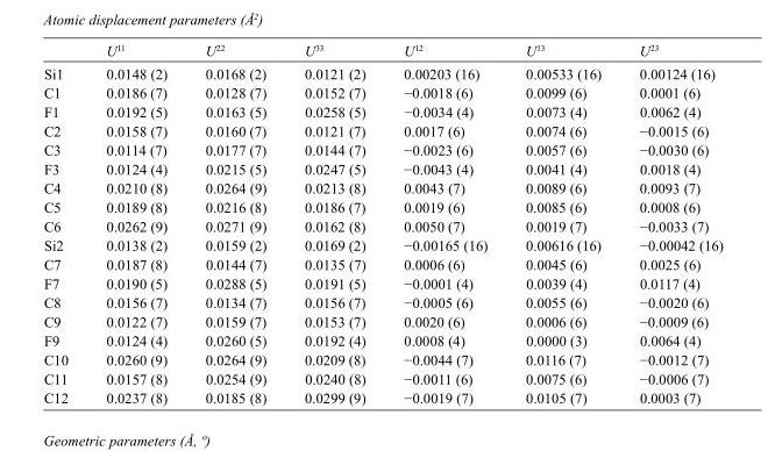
<table><thead><tr><td></td><td>U<sup>11</sup></td><td>U<sup>22</sup></td><td>U<sup>33</sup></td><td>U<sup>12</sup></td><td>U<sup>13</sup></td><td>U<sup>23</sup></td></tr></thead><tbody><tr><td>Si1</td><td>0.0148 (2)</td><td>0.0168 (2)</td><td>0.0121 (2)</td><td>0.00203 (16)</td><td>0.00533 (16)</td><td>0.00124 (16)</td></tr><tr><td>C1</td><td>0.0186 (7)</td><td>0.0128 (7)</td><td>0.0152 (7)</td><td>−0.0018 (6)</td><td>0.0099 (6)</td><td>0.0001 (6)</td></tr><tr><td>F1</td><td>0.0192 (5)</td><td>0.0163 (5)</td><td>0.0258 (5)</td><td>−0.0034 (4)</td><td>0.0073 (4)</td><td>0.0062 (4)</td></tr><tr><td>C2</td><td>0.0158 (7)</td><td>0.0160 (7)</td><td>0.0121 (7)</td><td>0.0017 (6)</td><td>0.0074 (6)</td><td>−0.0015 (6)</td></tr><tr><td>C3</td><td>0.0114 (7)</td><td>0.0177 (7)</td><td>0.0144 (7)</td><td>−0.0023 (6)</td><td>0.0057 (6)</td><td>−0.0030 (6)</td></tr><tr><td>F3</td><td>0.0124 (4)</td><td>0.0215 (5)</td><td>0.0247 (5)</td><td>−0.0043 (4)</td><td>0.0041 (4)</td><td>0.0018 (4)</td></tr><tr><td>C4</td><td>0.0210 (8)</td><td>0.0264 (9)</td><td>0.0213 (8)</td><td>0.0043 (7)</td><td>0.0089 (6)</td><td>0.0093 (7)</td></tr><tr><td>C5</td><td>0.0189 (8)</td><td>0.0216 (8)</td><td>0.0186 (7)</td><td>0.0019 (6)</td><td>0.0085 (6)</td><td>0.0008 (6)</td></tr><tr><td>C6</td><td>0.0262 (9)</td><td>0.0271 (9)</td><td>0.0162 (8)</td><td>0.0050 (7)</td><td>0.0019 (7)</td><td>−0.0033 (7)</td></tr><tr><td>Si2</td><td>0.0138 (2)</td><td>0.0159 (2)</td><td>0.0169 (2)</td><td>−0.00165 (16)</td><td>0.00616 (16)</td><td>−0.00042 (16)</td></tr><tr><td>C7</td><td>0.0187 (8)</td><td>0.0144 (7)</td><td>0.0135 (7)</td><td>0.0006 (6)</td><td>0.0045 (6)</td><td>0.0025 (6)</td></tr><tr><td>F7</td><td>0.0190 (5)</td><td>0.0288 (5)</td><td>0.0191 (5)</td><td>−0.0001 (4)</td><td>0.0039 (4)</td><td>0.0117 (4)</td></tr><tr><td>C8</td><td>0.0156 (7)</td><td>0.0134 (7)</td><td>0.0156 (7)</td><td>−0.0005 (6)</td><td>0.0055 (6)</td><td>−0.0020 (6)</td></tr><tr><td>C9</td><td>0.0122 (7)</td><td>0.0159 (7)</td><td>0.0153 (7)</td><td>0.0020 (6)</td><td>0.0006 (6)</td><td>−0.0009 (6)</td></tr><tr><td>F9</td><td>0.0124 (4)</td><td>0.0260 (5)</td><td>0.0192 (4)</td><td>0.0008 (4)</td><td>0.0000 (3)</td><td>0.0064 (4)</td></tr><tr><td>C10</td><td>0.0260 (9)</td><td>0.0264 (9)</td><td>0.0209 (8)</td><td>−0.0044 (7)</td><td>0.0116 (7)</td><td>−0.0012 (7)</td></tr><tr><td>C11</td><td>0.0157 (8)</td><td>0.0254 (9)</td><td>0.0240 (8)</td><td>−0.0011 (6)</td><td>0.0075 (6)</td><td>−0.0006 (7)</td></tr><tr><td>C12</td><td>0.0237 (8)</td><td>0.0185 (8)</td><td>0.0299 (9)</td><td>−0.0019 (7)</td><td>0.0105 (7)</td><td>0.0003 (7)</td></tr></tbody></table>